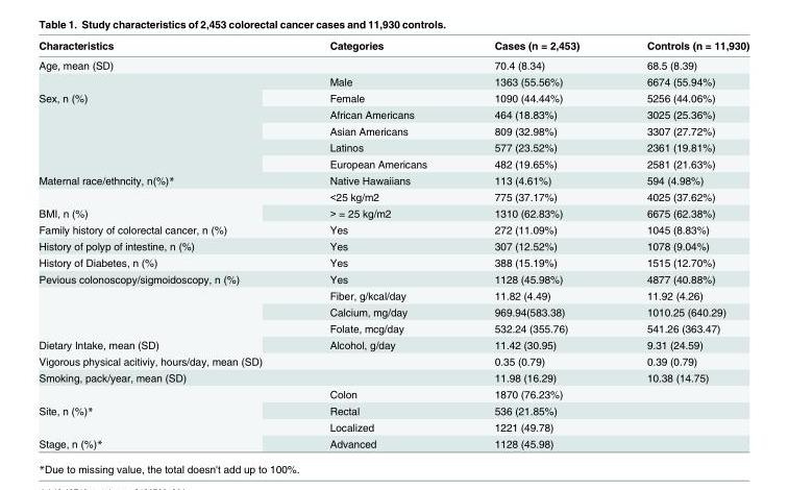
<table><thead><tr><td>Characteristics</td><td>Categories</td><td>Cases (n = 2,453)</td><td>Controls (n = 11,930)</td></tr></thead><tbody><tr><td>Age, mean (SD)</td><td></td><td>70.4 (8.34)</td><td>68.5 (8.39)</td></tr><tr><td rowspan="2">Sex, n (%)</td><td>Male</td><td>1363 (55.56%)</td><td>6674 (55.94%)</td></tr><tr><td>Female</td><td>1090 (44.44%)</td><td>5256 (44.06%)</td></tr><tr><td rowspan="5">Maternal race/ethncity, n(%)*</td><td>African Americans</td><td>464 (18.83%)</td><td>3025 (25.36%)</td></tr><tr><td>Asian Americans</td><td>809 (32.98%)</td><td>3307 (27.72%)</td></tr><tr><td>Latinos</td><td>577 (23.52%)</td><td>2361 (19.81%)</td></tr><tr><td>European Americans</td><td>482 (19.65%)</td><td>2581 (21.63%)</td></tr><tr><td>Native Hawaiians</td><td>113 (4.61%)</td><td>594 (4.98%)</td></tr><tr><td rowspan="2">BMI, n (%)</td><td>&lt;25 kg/m2</td><td>775 (37.17%)</td><td>4025 (37.62%)</td></tr><tr><td>&gt; = 25 kg/m2</td><td>1310 (62.83%)</td><td>6675 (62.38%)</td></tr><tr><td>Family history of colorectal cancer, n (%)</td><td>Yes</td><td>272 (11.09%)</td><td>1045 (8.83%)</td></tr><tr><td>History of polyp of intestine, n (%)</td><td>Yes</td><td>307 (12.52%)</td><td>1078 (9.04%)</td></tr><tr><td>History of Diabetes, n (%)</td><td>Yes</td><td>388 (15.19%)</td><td>1515 (12.70%)</td></tr><tr><td>Pevious colonoscopy/sigmoidoscopy, n (%)</td><td>Yes</td><td>1128 (45.98%)</td><td>4877 (40.88%)</td></tr><tr><td rowspan="4">Dietary Intake, mean (SD)</td><td>Fiber, g/kcal/day</td><td>11.82 (4.49)</td><td>11.92 (4.26)</td></tr><tr><td>Calcium, mg/day</td><td>969.94(583.38)</td><td>1010.25 (640.29)</td></tr><tr><td>Folate, mcg/day</td><td>532.24 (355.76)</td><td>541.26 (363.47)</td></tr><tr><td>Alcohol, g/day</td><td>11.42 (30.95)</td><td>9.31 (24.59)</td></tr><tr><td>Vigorous physical acitiviy, hours/day, mean (SD)</td><td></td><td>0.35 (0.79)</td><td>0.39 (0.79)</td></tr><tr><td>Smoking, pack/year, mean (SD)</td><td></td><td>11.98 (16.29)</td><td>10.38 (14.75)</td></tr><tr><td rowspan="2">Site, n (%)*</td><td>Colon</td><td>1870 (76.23%)</td><td></td></tr><tr><td>Rectal</td><td>536 (21.85%)</td><td></td></tr><tr><td rowspan="2">Stage, n (%)*</td><td>Localized</td><td>1221 (49.78)</td><td></td></tr><tr><td>Advanced</td><td>1128 (45.98)</td><td></td></tr></tbody></table>